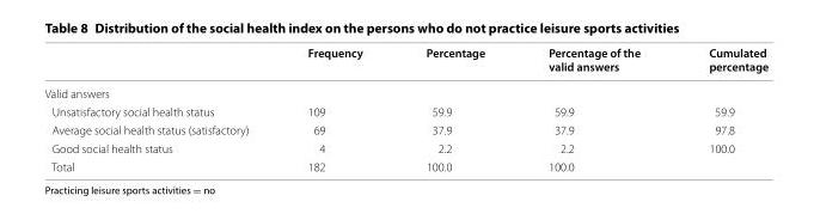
<table><thead><tr><td></td><td>Frequency</td><td>Percentage</td><td>Percentage of the valid answers</td><td>Cumulated percentage</td></tr></thead><tbody><tr><td colspan="5">Valid answers</td></tr><tr><td>Unsatisfactory social health status</td><td>109</td><td>59.9</td><td>59.9</td><td>59.9</td></tr><tr><td>Average social health status (satisfactory)</td><td>69</td><td>37.9</td><td>37.9</td><td>97.8</td></tr><tr><td>Good social health status</td><td>4</td><td>2.2</td><td>2.2</td><td>100.0</td></tr><tr><td>Total</td><td>182</td><td>100.0</td><td>100.0</td><td></td></tr></tbody></table>